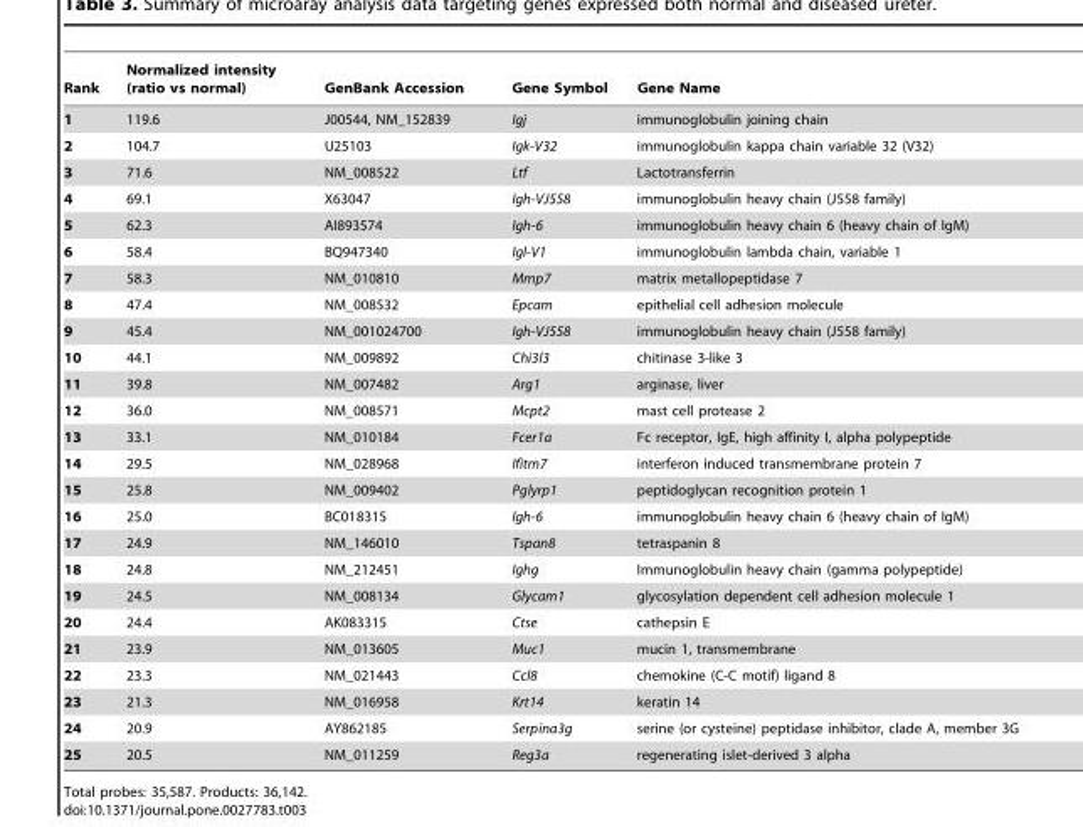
<table><thead><tr><td>Rank</td><td>Normalized intensity (ratio vs normal)</td><td>GenBank Accession</td><td>Gene Symbol</td><td>Gene Name</td></tr></thead><tbody><tr><td>1</td><td>119.6</td><td>J00544, NM_152839</td><td>Igj</td><td>immunoglobulin joining chain</td></tr><tr><td>2</td><td>104.7</td><td>U25103</td><td>Igk-V32</td><td>immunoglobulin kappa chain variable 32 (V32)</td></tr><tr><td>3</td><td>71.6</td><td>NM_008522</td><td>Ltf</td><td>Lactotransferrin</td></tr><tr><td>4</td><td>69.1</td><td>X63047</td><td>Igh-VJ558</td><td>immunoglobulin heavy chain (J558 family)</td></tr><tr><td>5</td><td>62.3</td><td>AI893574</td><td>Igh-6</td><td>immunoglobulin heavy chain 6 (heavy chain of IgM)</td></tr><tr><td>6</td><td>58.4</td><td>BQ947340</td><td>Igl-V1</td><td>immunoglobulin lambda chain, variable 1</td></tr><tr><td>7</td><td>58.3</td><td>NM_010810</td><td>Mmp7</td><td>matrix metallopeptidase 7</td></tr><tr><td>8</td><td>47.4</td><td>NM_008532</td><td>Epcam</td><td>epithelial cell adhesion molecule</td></tr><tr><td>9</td><td>45.4</td><td>NM_001024700</td><td>Igh-VJ558</td><td>immunoglobulin heavy chain (J558 family)</td></tr><tr><td>10</td><td>44.1</td><td>NM_009892</td><td>Chi3l3</td><td>chitinase 3-like 3</td></tr><tr><td>11</td><td>39.8</td><td>NM_007482</td><td>Arg1</td><td>arginase, liver</td></tr><tr><td>12</td><td>36.0</td><td>NM_008571</td><td>Mcpt2</td><td>mast cell protease 2</td></tr><tr><td>13</td><td>33.1</td><td>NM_010184</td><td>Fcer1a</td><td>Fc receptor, IgE, high affinity I, alpha polypeptide</td></tr><tr><td>14</td><td>29.5</td><td>NM_028968</td><td>Ifitm7</td><td>interferon induced transmembrane protein 7</td></tr><tr><td>15</td><td>25.8</td><td>NM_009402</td><td>Pglyrp1</td><td>peptidoglycan recognition protein 1</td></tr><tr><td>16</td><td>25.0</td><td>BC018315</td><td>Igh-6</td><td>immunoglobulin heavy chain 6 (heavy chain of IgM)</td></tr><tr><td>17</td><td>24.9</td><td>NM_146010</td><td>Tspan8</td><td>tetraspanin 8</td></tr><tr><td>18</td><td>24.8</td><td>NM_212451</td><td>Ighg</td><td>Immunoglobulin heavy chain (gamma polypeptide)</td></tr><tr><td>19</td><td>24.5</td><td>NM_008134</td><td>Glycam1</td><td>glycosylation dependent cell adhesion molecule 1</td></tr><tr><td>20</td><td>24.4</td><td>AK083315</td><td>Ctse</td><td>cathepsin E</td></tr><tr><td>21</td><td>23.9</td><td>NM_013605</td><td>Muc1</td><td>mucin 1, transmembrane</td></tr><tr><td>22</td><td>23.3</td><td>NM_021443</td><td>Ccl8</td><td>chemokine (C-C motif) ligand 8</td></tr><tr><td>23</td><td>21.3</td><td>NM_016958</td><td>Krt14</td><td>keratin 14</td></tr><tr><td>24</td><td>20.9</td><td>AY862185</td><td>Serpina3g</td><td>serine (or cysteine) peptidase inhibitor, clade A, member 3G</td></tr><tr><td>25</td><td>20.5</td><td>NM_011259</td><td>Reg3a</td><td>regenerating islet-derived 3 alpha</td></tr></tbody></table>